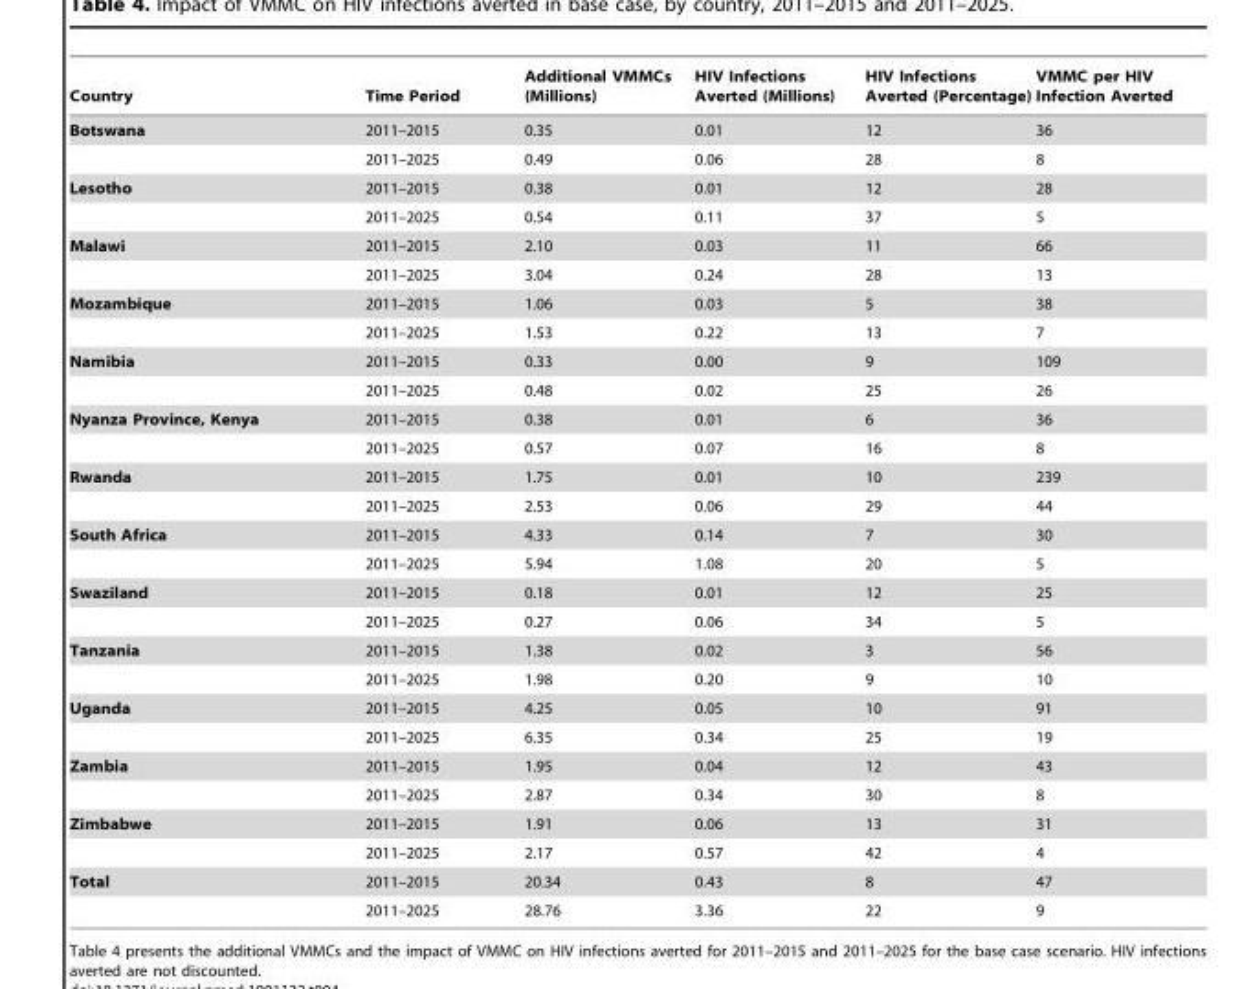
<table><thead><tr><td>Country</td><td>Time Period</td><td>Additional VMMCs (Millions)</td><td>HIV Infections Averted (Millions)</td><td>HIV Infections Averted (Percentage)</td><td>VMMC per HIV Infection Averted</td></tr></thead><tbody><tr><td rowspan="2">Botswana</td><td>2011–2015</td><td>0.35</td><td>0.01</td><td>12</td><td>36</td></tr><tr><td>2011–2025</td><td>0.49</td><td>0.06</td><td>28</td><td>8</td></tr><tr><td rowspan="2">Lesotho</td><td>2011–2015</td><td>0.38</td><td>0.01</td><td>12</td><td>28</td></tr><tr><td>2011–2025</td><td>0.54</td><td>0.11</td><td>37</td><td>5</td></tr><tr><td rowspan="2">Malawi</td><td>2011–2015</td><td>2.10</td><td>0.03</td><td>11</td><td>66</td></tr><tr><td>2011–2025</td><td>3.04</td><td>0.24</td><td>28</td><td>13</td></tr><tr><td rowspan="2">Mozambique</td><td>2011–2015</td><td>1.06</td><td>0.03</td><td>5</td><td>38</td></tr><tr><td>2011–2025</td><td>1.53</td><td>0.22</td><td>13</td><td>7</td></tr><tr><td rowspan="2">Namibia</td><td>2011–2015</td><td>0.33</td><td>0.00</td><td>9</td><td>109</td></tr><tr><td>2011–2025</td><td>0.48</td><td>0.02</td><td>25</td><td>26</td></tr><tr><td rowspan="2">Nyanza Province, Kenya</td><td>2011–2015</td><td>0.38</td><td>0.01</td><td>6</td><td>36</td></tr><tr><td>2011–2025</td><td>0.57</td><td>0.07</td><td>16</td><td>8</td></tr><tr><td rowspan="2">Rwanda</td><td>2011–2015</td><td>1.75</td><td>0.01</td><td>10</td><td>239</td></tr><tr><td>2011–2025</td><td>2.53</td><td>0.06</td><td>29</td><td>44</td></tr><tr><td rowspan="2">South Africa</td><td>2011–2015</td><td>4.33</td><td>0.14</td><td>7</td><td>30</td></tr><tr><td>2011–2025</td><td>5.94</td><td>1.08</td><td>20</td><td>5</td></tr><tr><td rowspan="2">Swaziland</td><td>2011–2015</td><td>0.18</td><td>0.01</td><td>12</td><td>25</td></tr><tr><td>2011–2025</td><td>0.27</td><td>0.06</td><td>34</td><td>5</td></tr><tr><td rowspan="2">Tanzania</td><td>2011–2015</td><td>1.38</td><td>0.02</td><td>3</td><td>56</td></tr><tr><td>2011–2025</td><td>1.98</td><td>0.20</td><td>9</td><td>10</td></tr><tr><td rowspan="2">Uganda</td><td>2011–2015</td><td>4.25</td><td>0.05</td><td>10</td><td>91</td></tr><tr><td>2011–2025</td><td>6.35</td><td>0.34</td><td>25</td><td>19</td></tr><tr><td rowspan="2">Zambia</td><td>2011–2015</td><td>1.95</td><td>0.04</td><td>12</td><td>43</td></tr><tr><td>2011–2025</td><td>2.87</td><td>0.34</td><td>30</td><td>8</td></tr><tr><td rowspan="2">Zimbabwe</td><td>2011–2015</td><td>1.91</td><td>0.06</td><td>13</td><td>31</td></tr><tr><td>2011–2025</td><td>2.17</td><td>0.57</td><td>42</td><td>4</td></tr><tr><td rowspan="2">Total</td><td>2011–2015</td><td>20.34</td><td>0.43</td><td>8</td><td>47</td></tr><tr><td>2011–2025</td><td>28.76</td><td>3.36</td><td>22</td><td>9</td></tr></tbody></table>